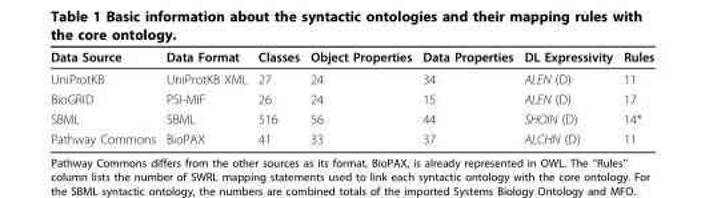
<table><thead><tr><td>Data Source</td><td>Data Format</td><td>Classes</td><td>Object Properties</td><td>Data Properties</td><td>DL Expressivity</td><td>Rules</td></tr></thead><tbody><tr><td>UniProtKB</td><td>UniProtKB XML</td><td>27</td><td>24</td><td>34</td><td>ALEN (D)</td><td>11</td></tr><tr><td>BioGRID</td><td>PSI-MIF</td><td>26</td><td>24</td><td>15</td><td>ALEN (D)</td><td>17</td></tr><tr><td>SBML</td><td>SBML</td><td>516</td><td>56</td><td>44</td><td>SHOIN (D)</td><td>14*</td></tr><tr><td>Pathway Commons</td><td>BioPAX</td><td>41</td><td>33</td><td>37</td><td>ALCHN (D)</td><td>11</td></tr></tbody></table>